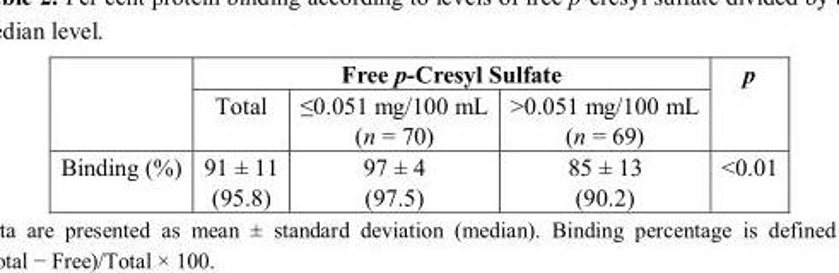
<table><thead><tr><td rowspan="2"></td><td colspan="3">Free p-Cresyl Sulfate</td><td rowspan="2">p</td></tr><tr><td>Total</td><td>≤0.051 mg/100 mL (n = 70)</td><td>&gt;0.051 mg/100 mL (n = 69)</td></tr></thead><tbody><tr><td>Binding (%)</td><td>91 ± 11 (95.8)</td><td>97 ± 4 (97.5)</td><td>85 ± 13 (90.2)</td><td>&lt;0.01</td></tr></tbody></table>